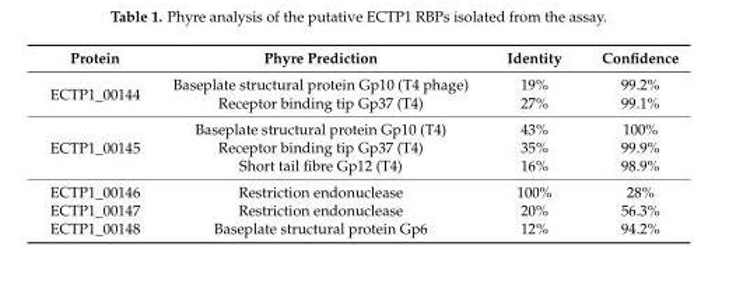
<table><thead><tr><td>Protein</td><td>Phyre Prediction</td><td>Identity</td><td>Confidence</td></tr></thead><tbody><tr><td rowspan="2">ECTP1_00144</td><td>Baseplate structural protein Gp10 (T4 phage)</td><td>19%</td><td>99.2%</td></tr><tr><td>Receptor binding tip Gp37 (T4)</td><td>27%</td><td>99.1%</td></tr><tr><td rowspan="3">ECTP1_00145</td><td>Baseplate structural protein Gp10 (T4)</td><td>43%</td><td>100%</td></tr><tr><td>Receptor binding tip Gp37 (T4)</td><td>35%</td><td>99.9%</td></tr><tr><td>Short tail fibre Gp12 (T4)</td><td>16%</td><td>98.9%</td></tr><tr><td>ECTP1_00146</td><td>Restriction endonuclease</td><td>100%</td><td>28%</td></tr><tr><td>ECTP1_00147</td><td>Restriction endonuclease</td><td>20%</td><td>56.3%</td></tr><tr><td>ECTP1_00148</td><td>Baseplate structural protein Gp6</td><td>12%</td><td>94.2%</td></tr></tbody></table>